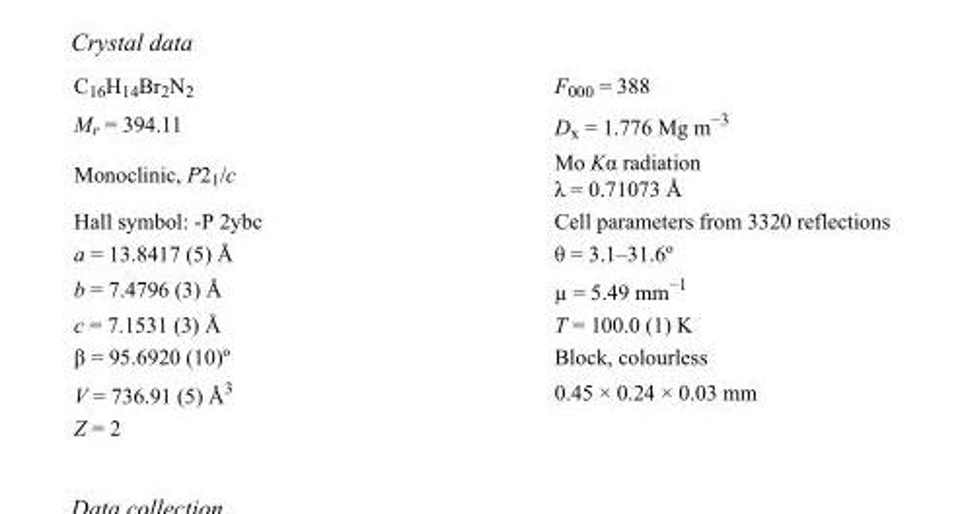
<table><tbody><tr><td>C<sub>16</sub>H<sub>14</sub>Br<sub>2</sub>N<sub>2</sub></td><td>F<sub>000</sub> = 388</td></tr><tr><td>M<sub>r</sub> = 394.11</td><td>D<sub>x</sub> = 1.776 Mg m<sup>−3</sup></td></tr><tr><td>Monoclinic, P2<sub>1</sub>/c</td><td>Mo Kα radiation λ = 0.71073 Å</td></tr><tr><td>Hall symbol: -P 2ybc</td><td>Cell parameters from 3320 reflections</td></tr><tr><td>a = 13.8417 (5) Å</td><td>θ = 3.1–31.6º</td></tr><tr><td>b = 7.4796 (3) Å</td><td>µ = 5.49 mm<sup>−1</sup></td></tr><tr><td>c = 7.1531 (3) Å</td><td>T = 100.0 (1) K</td></tr><tr><td>β = 95.6920 (10)º</td><td>Block, colourless</td></tr><tr><td>V = 736.91 (5) Å<sup>3</sup></td><td>0.45 × 0.24 × 0.03 mm</td></tr><tr><td>Z = 2</td><td></td></tr></tbody></table>